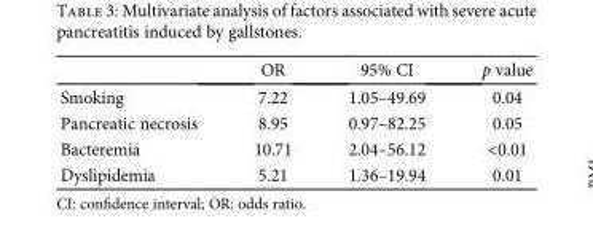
<table><thead><tr><td></td><td>OR</td><td>95% CI</td><td>p value</td></tr></thead><tbody><tr><td>Smoking</td><td>7.22</td><td>1.05–49.69</td><td>0.04</td></tr><tr><td>Pancreatic necrosis</td><td>8.95</td><td>0.97–82.25</td><td>0.05</td></tr><tr><td>Bacteremia</td><td>10.71</td><td>2.04–56.12</td><td>&lt;0.01</td></tr><tr><td>Dyslipidemia</td><td>5.21</td><td>1.36–19.94</td><td>0.01</td></tr></tbody></table>